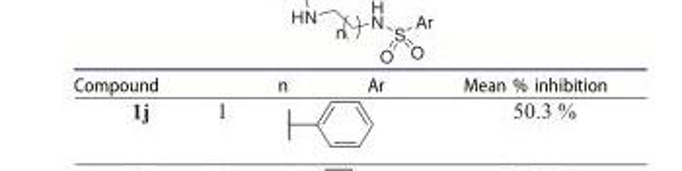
<table><tbody><tr><td>Compound</td><td>n</td><td>Ar</td><td>Mean % inhibition</td></tr></tbody></table>